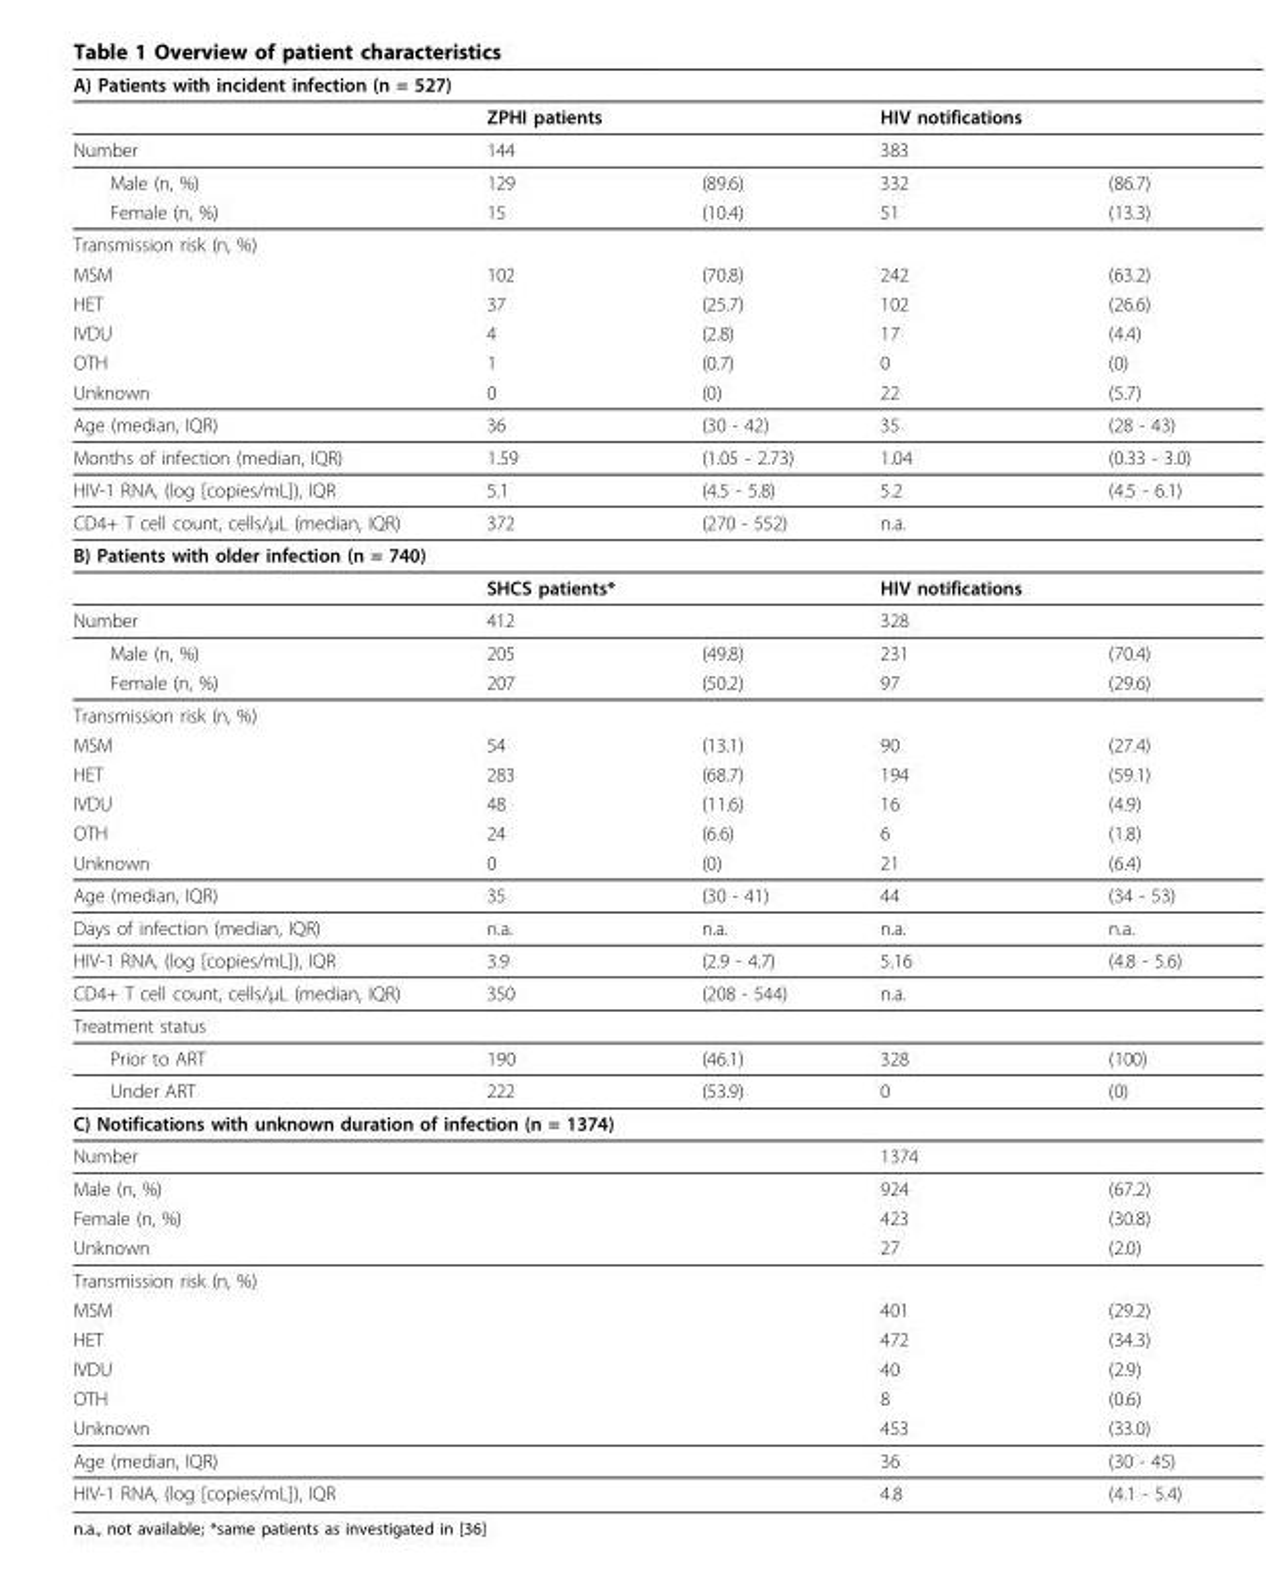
<table><thead><tr><td colspan="5">A) Patients with incident infection (n = 527)</td></tr><tr><td></td><td>ZPHI patients</td><td></td><td>HIV notifications</td><td></td></tr></thead><tbody><tr><td>Number</td><td>144</td><td></td><td>383</td><td></td></tr><tr><td>Male (n, %)</td><td>129</td><td>(89.6)</td><td>332</td><td>(86.7)</td></tr><tr><td>Female (n, %)</td><td>15</td><td>(10.4)</td><td>51</td><td>(13.3)</td></tr><tr><td colspan="5">Transmission risk (n, %)</td></tr><tr><td>MSM</td><td>102</td><td>(70.8)</td><td>242</td><td>(63.2)</td></tr><tr><td>HET</td><td>37</td><td>(25.7)</td><td>102</td><td>(26.6)</td></tr><tr><td>IVDU</td><td>4</td><td>(2.8)</td><td>17</td><td>(4.4)</td></tr><tr><td>OTH</td><td>1</td><td>(0.7)</td><td>0</td><td>(0)</td></tr><tr><td>Unknown</td><td>0</td><td>(0)</td><td>22</td><td>(5.7)</td></tr><tr><td>Age (median, IQR)</td><td>36</td><td>(30 - 42)</td><td>35</td><td>(28 - 43)</td></tr><tr><td>Months of infection (median, IQR)</td><td>1.59</td><td>(1.05 - 2.73)</td><td>1.04</td><td>(0.33 - 3.0)</td></tr><tr><td>HIV-1 RNA, (log [copies/mL]), IQR</td><td>5.1</td><td>(4.5 - 5.8)</td><td>5.2</td><td>(4.5 - 6.1)</td></tr><tr><td>CD4+ T cell count, cells/μL (median, IQR)</td><td>372</td><td>(270 - 552)</td><td>n.a.</td><td></td></tr><tr><td colspan="5">B) Patients with older infection (n = 740)</td></tr><tr><td></td><td>SHCS patients*</td><td></td><td>HIV notifications</td><td></td></tr><tr><td>Number</td><td>412</td><td></td><td>328</td><td></td></tr><tr><td>Male (n, %)</td><td>205</td><td>(49.8)</td><td>231</td><td>(70.4)</td></tr><tr><td>Female (n, %)</td><td>207</td><td>(50.2)</td><td>97</td><td>(29.6)</td></tr><tr><td colspan="5">Transmission risk (n, %)</td></tr><tr><td>MSM</td><td>54</td><td>(13.1)</td><td>90</td><td>(27.4)</td></tr><tr><td>HET</td><td>283</td><td>(68.7)</td><td>194</td><td>(59.1)</td></tr><tr><td>IVDU</td><td>48</td><td>(11.6)</td><td>16</td><td>(4.9)</td></tr><tr><td>OTH</td><td>24</td><td>(6.6)</td><td>6</td><td>(1.8)</td></tr><tr><td>Unknown</td><td>0</td><td>(0)</td><td>21</td><td>(6.4)</td></tr><tr><td>Age (median, IQR)</td><td>35</td><td>(30 - 41)</td><td>44</td><td>(34 - 53)</td></tr><tr><td>Days of infection (median, IQR)</td><td>n.a.</td><td>n.a.</td><td>n.a.</td><td>n.a.</td></tr><tr><td>HIV-1 RNA, (log [copies/mL]), IQR</td><td>3.9</td><td>(2.9 - 4.7)</td><td>5.16</td><td>(4.8 - 5.6)</td></tr><tr><td>CD4+ T cell count, cells/μL (median, IQR)</td><td>350</td><td>(208 - 544)</td><td>n.a.</td><td></td></tr><tr><td colspan="5">Treatment status</td></tr><tr><td>Prior to ART</td><td>190</td><td>(46.1)</td><td>328</td><td>(100)</td></tr><tr><td>Under ART</td><td>222</td><td>(53.9)</td><td>0</td><td>(0)</td></tr><tr><td colspan="5">C) Notifications with unknown duration of infection (n = 1374)</td></tr><tr><td>Number</td><td></td><td></td><td>1374</td><td></td></tr><tr><td>Male (n, %)</td><td></td><td></td><td>924</td><td>(67.2)</td></tr><tr><td>Female (n, %)</td><td></td><td></td><td>423</td><td>(30.8)</td></tr><tr><td>Unknown</td><td></td><td></td><td>27</td><td>(2.0)</td></tr><tr><td colspan="5">Transmission risk (n, %)</td></tr><tr><td>MSM</td><td></td><td></td><td>401</td><td>(29.2)</td></tr><tr><td>HET</td><td></td><td></td><td>472</td><td>(34.3)</td></tr><tr><td>IVDU</td><td></td><td></td><td>40</td><td>(2.9)</td></tr><tr><td>OTH</td><td></td><td></td><td>8</td><td>(0.6)</td></tr><tr><td>Unknown</td><td></td><td></td><td>453</td><td>(33.0)</td></tr><tr><td>Age (median, IQR)</td><td></td><td></td><td>36</td><td>(30 - 45)</td></tr><tr><td>HIV-1 RNA, (log [copies/mL]), IQR</td><td></td><td></td><td>4.8</td><td>(4.1 - 5.4)</td></tr></tbody></table>